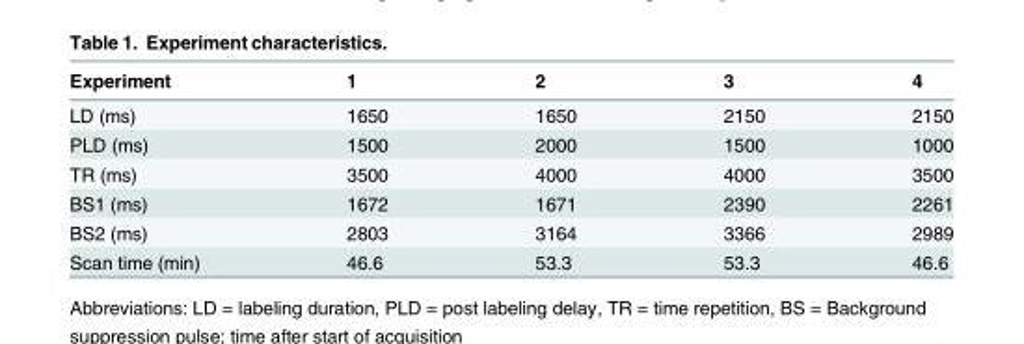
<table><thead><tr><td>Experiment</td><td>1</td><td>2</td><td>3</td><td>4</td></tr></thead><tbody><tr><td>LD (ms)</td><td>1650</td><td>1650</td><td>2150</td><td>2150</td></tr><tr><td>PLD (ms)</td><td>1500</td><td>2000</td><td>1500</td><td>1000</td></tr><tr><td>TR (ms)</td><td>3500</td><td>4000</td><td>4000</td><td>3500</td></tr><tr><td>BS1 (ms)</td><td>1672</td><td>1671</td><td>2390</td><td>2261</td></tr><tr><td>BS2 (ms)</td><td>2803</td><td>3164</td><td>3366</td><td>2989</td></tr><tr><td>Scan time (min)</td><td>46.6</td><td>53.3</td><td>53.3</td><td>46.6</td></tr></tbody></table>